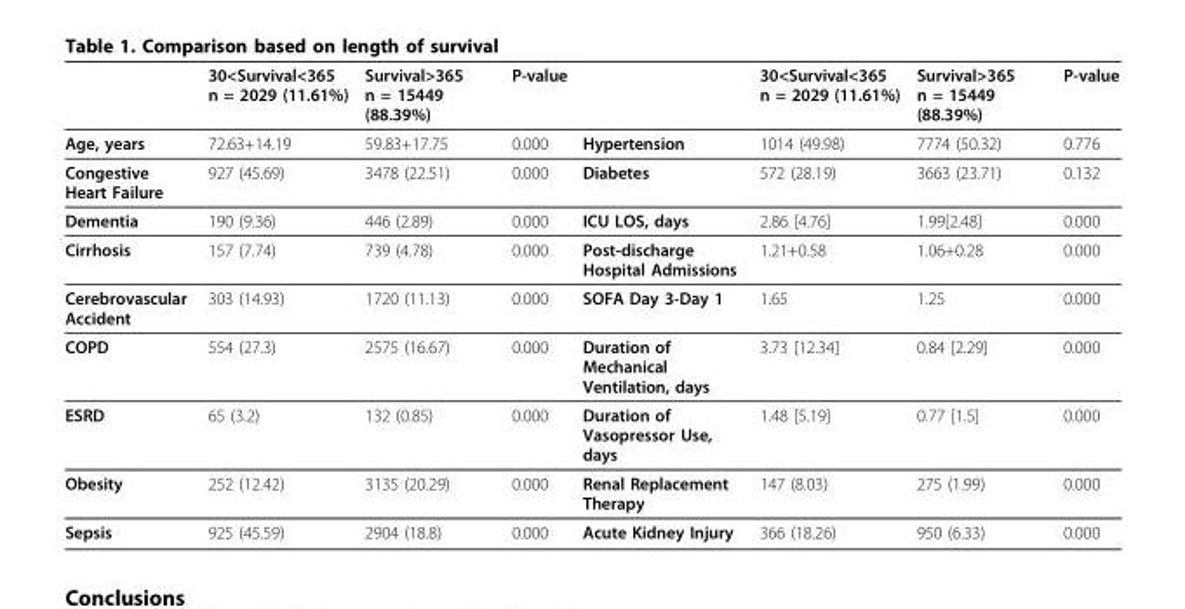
<table><thead><tr><td></td><td>30&lt;Survival&lt;365 n = 2029 (11.61%)</td><td>Survival&gt;365 n = 15449 (88.39%)</td><td>P-value</td><td></td><td>30&lt;Survival&lt;365 n = 2029 (11.61%)</td><td>Survival&gt;365 n = 15449 (88.39%)</td><td>P-value</td></tr></thead><tbody><tr><td>Age, years</td><td>72.63+14.19</td><td>59.83+17.75</td><td>0.000</td><td>Hypertension</td><td>1014 (49.98)</td><td>7774 (50.32)</td><td>0.776</td></tr><tr><td>Congestive Heart Failure</td><td>927 (45.69)</td><td>3478 (22.51)</td><td>0.000</td><td>Diabetes</td><td>572 (28.19)</td><td>3663 (23.71)</td><td>0.132</td></tr><tr><td>Dementia</td><td>190 (9.36)</td><td>446 (2.89)</td><td>0.000</td><td>ICU LOS, days</td><td>2.86 [4.76]</td><td>1.99[2.48]</td><td>0.000</td></tr><tr><td>Cirrhosis</td><td>157 (7.74)</td><td>739 (4.78)</td><td>0.000</td><td>Post-discharge Hospital Admissions</td><td>1.21+0.58</td><td>1.06+0.28</td><td>0.000</td></tr><tr><td>Cerebrovascular Accident</td><td>303 (14.93)</td><td>1720 (11.13)</td><td>0.000</td><td>SOFA Day 3-Day 1</td><td>1.65</td><td>1.25</td><td>0.000</td></tr><tr><td>COPD</td><td>554 (27.3)</td><td>2575 (16.67)</td><td>0.000</td><td>Duration of Mechanical Ventilation, days</td><td>3.73 [12.34]</td><td>0.84 [2.29]</td><td>0.000</td></tr><tr><td>ESRD</td><td>65 (3.2)</td><td>132 (0.85)</td><td>0.000</td><td>Duration of Vasopressor Use, days</td><td>1.48 [5.19]</td><td>0.77 [1.5]</td><td>0.000</td></tr><tr><td>Obesity</td><td>252 (12.42)</td><td>3135 (20.29)</td><td>0.000</td><td>Renal Replacement Therapy</td><td>147 (8.03)</td><td>275 (1.99)</td><td>0.000</td></tr><tr><td>Sepsis</td><td>925 (45.59)</td><td>2904 (18.8)</td><td>0.000</td><td>Acute Kidney Injury</td><td>366 (18.26)</td><td>950 (6.33)</td><td>0.000</td></tr></tbody></table>